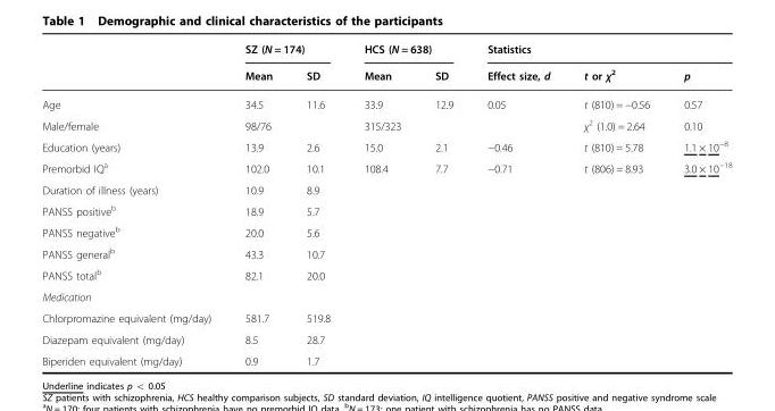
<table><thead><tr><td rowspan="2"></td><td colspan="2">SZ (N = 174)</td><td colspan="2">HCS (N = 638)</td><td colspan="3">Statistics</td></tr><tr><td>Mean</td><td>SD</td><td>Mean</td><td>SD</td><td>Effect size, d</td><td>t or χ<sup>2</sup></td><td>p</td></tr></thead><tbody><tr><td>Age</td><td>34.5</td><td>11.6</td><td>33.9</td><td>12.9</td><td>0.05</td><td>t (810) = −0.56</td><td>0.57</td></tr><tr><td>Male/female</td><td>98/76</td><td></td><td>315/323</td><td></td><td></td><td>χ<sup>2</sup> (1.0) = 2.64</td><td>0.10</td></tr><tr><td>Education (years)</td><td>13.9</td><td>2.6</td><td>15.0</td><td>2.1</td><td>−0.46</td><td>t (810) = 5.78</td><td>1.1 × 10<sup>−8</sup></td></tr><tr><td>Premorbid IQ<sup>a</sup></td><td>102.0</td><td>10.1</td><td>108.4</td><td>7.7</td><td>−0.71</td><td>t (806) = 8.93</td><td>3.0 × 10<sup>−18</sup></td></tr><tr><td>Duration of illness (years)</td><td>10.9</td><td>8.9</td><td></td><td></td><td></td><td></td><td></td></tr><tr><td>PANSS positive<sup>b</sup></td><td>18.9</td><td>5.7</td><td></td><td></td><td></td><td></td><td></td></tr><tr><td>PANSS negative<sup>b</sup></td><td>20.0</td><td>5.6</td><td></td><td></td><td></td><td></td><td></td></tr><tr><td>PANSS general<sup>b</sup></td><td>43.3</td><td>10.7</td><td></td><td></td><td></td><td></td><td></td></tr><tr><td>PANSS total<sup>b</sup></td><td>82.1</td><td>20.0</td><td></td><td></td><td></td><td></td><td></td></tr><tr><td colspan="8">Medication</td></tr><tr><td>Chlorpromazine equivalent (mg/day)</td><td>581.7</td><td>519.8</td><td></td><td></td><td></td><td></td><td></td></tr><tr><td>Diazepam equivalent (mg/day)</td><td>8.5</td><td>28.7</td><td></td><td></td><td></td><td></td><td></td></tr><tr><td>Biperiden equivalent (mg/day)</td><td>0.9</td><td>1.7</td><td></td><td></td><td></td><td></td><td></td></tr></tbody></table>